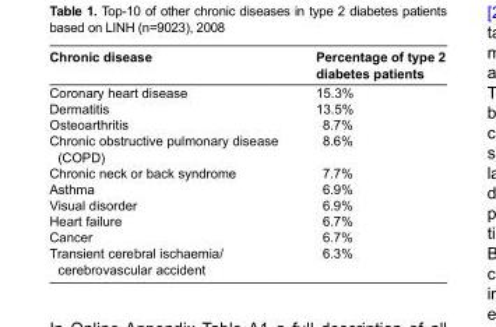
<table><thead><tr><td>Chronic disease</td><td>Percentage of type 2 diabetes patients</td></tr></thead><tbody><tr><td>Coronary heart disease</td><td>15.3%</td></tr><tr><td>Dermatitis</td><td>13.5%</td></tr><tr><td>Osteoarthritis</td><td>8.7%</td></tr><tr><td>Chronic obstructive pulmonary disease (COPD)</td><td>8.6%</td></tr><tr><td>Chronic neck or back syndrome</td><td>7.7%</td></tr><tr><td>Asthma</td><td>6.9%</td></tr><tr><td>Visual disorder</td><td>6.9%</td></tr><tr><td>Heart failure</td><td>6.7%</td></tr><tr><td>Cancer</td><td>6.7%</td></tr><tr><td>Transient cerebral ischaemia/ cerebrovascular accident</td><td>6.3%</td></tr></tbody></table>